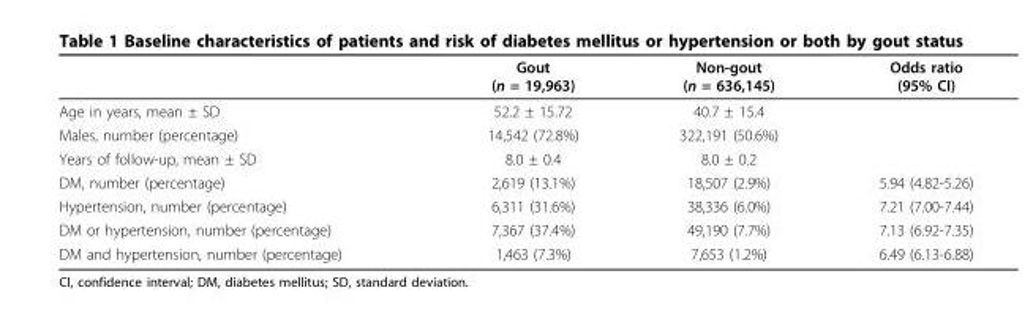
<table><thead><tr><td></td><td>Gout (n = 19,963)</td><td>Non-gout (n = 636,145)</td><td>Odds ratio (95% CI)</td></tr></thead><tbody><tr><td>Age in years, mean ± SD</td><td>52.2 ± 15.72</td><td>40.7 ± 15.4</td><td></td></tr><tr><td>Males, number (percentage)</td><td>14,542 (72.8%)</td><td>322,191 (50.6%)</td><td></td></tr><tr><td>Years of follow-up, mean ± SD</td><td>8.0 ± 0.4</td><td>8.0 ± 0.2</td><td></td></tr><tr><td>DM, number (percentage)</td><td>2,619 (13.1%)</td><td>18,507 (2.9%)</td><td>5.94 (4.82-5.26)</td></tr><tr><td>Hypertension, number (percentage)</td><td>6,311 (31.6%)</td><td>38,336 (6.0%)</td><td>7.21 (7.00-7.44)</td></tr><tr><td>DM or hypertension, number (percentage)</td><td>7,367 (37.4%)</td><td>49,190 (7.7%)</td><td>7.13 (6.92-7.35)</td></tr><tr><td>DM and hypertension, number (percentage)</td><td>1,463 (7.3%)</td><td>7,653 (1.2%)</td><td>6.49 (6.13-6.88)</td></tr></tbody></table>